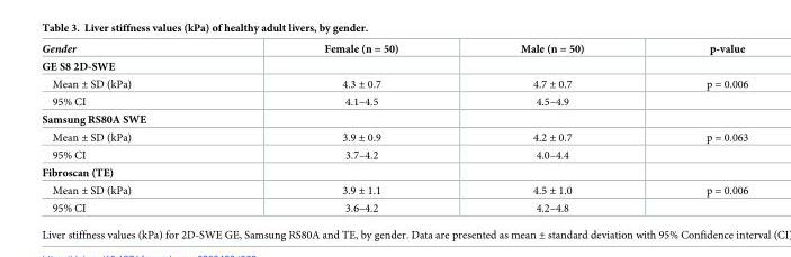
<table><thead><tr><td>Gender</td><td>Female (n = 50)</td><td>Male (n = 50)</td><td>p-value</td></tr></thead><tbody><tr><td colspan="4">GE S8 2D-SWE</td></tr><tr><td>Mean ± SD (kPa)</td><td>4.3 ± 0.7</td><td>4.7 ± 0.7</td><td>p = 0.006</td></tr><tr><td>95% CI</td><td>4.1–4.5</td><td>4.5–4.9</td><td></td></tr><tr><td colspan="4">Samsung RS80A SWE</td></tr><tr><td>Mean ± SD (kPa)</td><td>3.9 ± 0.9</td><td>4.2 ± 0.7</td><td>p = 0.063</td></tr><tr><td>95% CI</td><td>3.7–4.2</td><td>4.0–4.4</td><td></td></tr><tr><td colspan="4">Fibroscan (TE)</td></tr><tr><td>Mean ± SD (kPa)</td><td>3.9 ± 1.1</td><td>4.5 ± 1.0</td><td>p = 0.006</td></tr><tr><td>95% CI</td><td>3.6–4.2</td><td>4.2–4.8</td><td></td></tr></tbody></table>